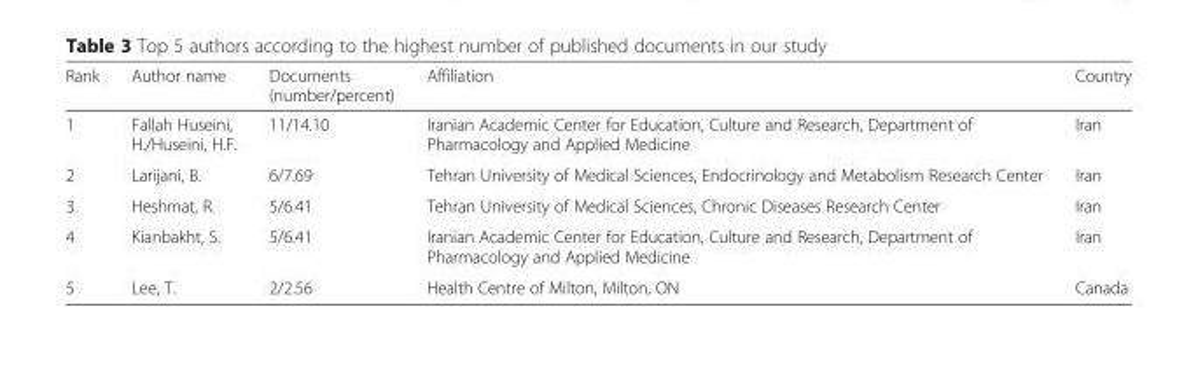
<table><thead><tr><td>Rank</td><td>Author name</td><td>Documents (number/percent)</td><td>Affiliation</td><td>Country</td></tr></thead><tbody><tr><td>1</td><td>Fallah Huseini, H./Huseini, H.F.</td><td>11/14.10</td><td>Iranian Academic Center for Education, Culture and Research, Department of Pharmacology and Applied Medicine</td><td>Iran</td></tr><tr><td>2</td><td>Larijani, B.</td><td>6/7.69</td><td>Tehran University of Medical Sciences, Endocrinology and Metabolism Research Center</td><td>Iran</td></tr><tr><td>3</td><td>Heshmat, R.</td><td>5/6.41</td><td>Tehran University of Medical Sciences, Chronic Diseases Research Center</td><td>Iran</td></tr><tr><td>4</td><td>Kianbakht, S.</td><td>5/6.41</td><td>Iranian Academic Center for Education, Culture and Research, Department of Pharmacology and Applied Medicine</td><td>Iran</td></tr><tr><td>5</td><td>Lee, T.</td><td>2/2.56</td><td>Health Centre of Milton, Milton, ON</td><td>Canada</td></tr></tbody></table>